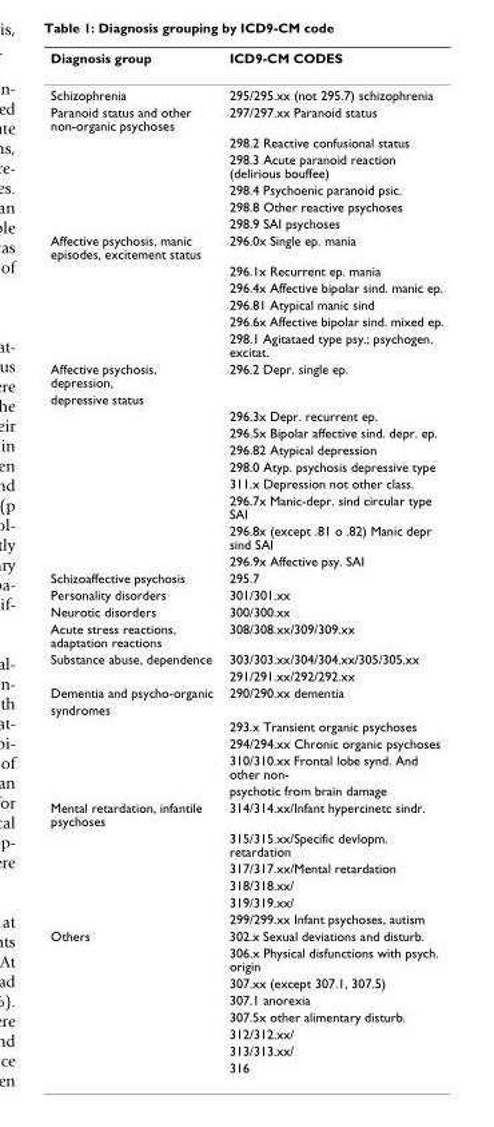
<table><thead><tr><td>Diagnosis group</td><td>ICD9-CM CODES</td></tr></thead><tbody><tr><td>Schizophrenia</td><td>295/295.xx (not 295.7) schizophrenia</td></tr><tr><td rowspan="6">Paranoid status and other non-organic psychoses</td><td>297/297.xx Paranoid status</td></tr><tr><td>298.2 Reactive confusional status</td></tr><tr><td>298.3 Acute paranoid reaction (delirious bouffee)</td></tr><tr><td>298.4 Psychoenic paranoid psic.</td></tr><tr><td>298.8 Other reactive psychoses</td></tr><tr><td>298.9 SAI psychoses</td></tr><tr><td rowspan="6">Affective psychosis, manic episodes, excitement status</td><td>296.0x Single ep. mania</td></tr><tr><td>296.1x Recurrent ep. mania</td></tr><tr><td>296.4x Affective bipolar sind. manic ep.</td></tr><tr><td>296.81 Atypical manic sind</td></tr><tr><td>296.6x Affective bipolar sind. mixed ep.</td></tr><tr><td>298.1 Agitataed type psy.; psychogen. excitat.</td></tr><tr><td>Affective psychosis, depression,</td><td>296.2 Depr. single ep.</td></tr><tr><td colspan="2">depressive status</td></tr><tr><td></td><td>296.3x Depr. recurrent ep.</td></tr><tr><td></td><td>296.5x Bipolar affective sind. depr. ep.</td></tr><tr><td></td><td>296.82 Atypical depression</td></tr><tr><td></td><td>298.0 Atyp. psychosis depressive type</td></tr><tr><td></td><td>311.x Depression not other class.</td></tr><tr><td></td><td>296.7x Manic-depr. sind circular type SAI</td></tr><tr><td></td><td>296.8x (except .81 o .82) Manic depr sind SAI</td></tr><tr><td></td><td>296.9x Affective psy. SAI</td></tr><tr><td>Schizoaffective psychosis</td><td>295.7</td></tr><tr><td>Personality disorders</td><td>301/301.xx</td></tr><tr><td>Neurotic disorders</td><td>300/300.xx</td></tr><tr><td>Acute stress reactions, adaptation reactions</td><td>308/308.xx/309/309.xx</td></tr><tr><td rowspan="2">Substance abuse, dependence</td><td>303/303.xx/304/304.xx/305/305.xx</td></tr><tr><td>291/291.xx/292/292.xx</td></tr><tr><td>Dementia and psycho-organic</td><td>290/290.xx dementia</td></tr><tr><td colspan="2">syndromes</td></tr><tr><td></td><td>293.x Transient organic psychoses</td></tr><tr><td></td><td>294/294.xx Chronic organic psychoses</td></tr><tr><td></td><td>310/310.xx Frontal lobe synd. And other non-</td></tr><tr><td></td><td>psychotic from brain damage</td></tr><tr><td rowspan="6">Mental retardation, infantile psychoses</td><td>314/314.xx/Infant hypercinetc sindr.</td></tr><tr><td>315/315.xx/Specific devlopm. retardation</td></tr><tr><td>317/317.xx/Mental retardation</td></tr><tr><td>318/318.xx/</td></tr><tr><td>319/319.xx/</td></tr><tr><td>299/299.xx Infant psychoses, autism</td></tr><tr><td rowspan="8">Others</td><td>302.x Sexual deviations and disturb.</td></tr><tr><td>306.x Physical disfunctions with psych. origin</td></tr><tr><td>307.xx (except 307.1, 307.5)</td></tr><tr><td>307.1 anorexia</td></tr><tr><td>307.5x other alimentary disturb.</td></tr><tr><td>312/312.xx/</td></tr><tr><td>313/313.xx/</td></tr><tr><td>316</td></tr></tbody></table>